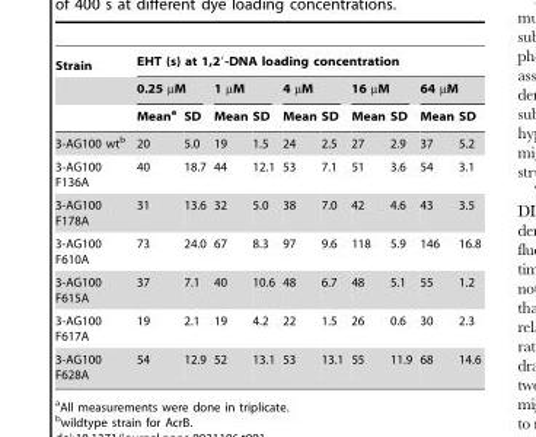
<table><thead><tr><td rowspan="3">Strain</td><td colspan="10">EHT (s) at 1,2′-DNA loading concentration</td></tr><tr><td colspan="2">0.25 µM</td><td colspan="2">1 µM</td><td colspan="2">4 µM</td><td colspan="2">16 µM</td><td colspan="2">64 µM</td></tr><tr><td>Mean<sup>a</sup></td><td>SD</td><td>Mean</td><td>SD</td><td>Mean</td><td>SD</td><td>Mean</td><td>SD</td><td>Mean</td><td>SD</td></tr></thead><tbody><tr><td>3-AG100 wt<sup>b</sup></td><td>20</td><td>5.0</td><td>19</td><td>1.5</td><td>24</td><td>2.5</td><td>27</td><td>2.9</td><td>37</td><td>5.2</td></tr><tr><td>3-AG100 F136A</td><td>40</td><td>18.7</td><td>44</td><td>12.1</td><td>53</td><td>7.1</td><td>51</td><td>3.6</td><td>54</td><td>3.1</td></tr><tr><td>3-AG100 F178A</td><td>31</td><td>13.6</td><td>32</td><td>5.0</td><td>38</td><td>7.0</td><td>42</td><td>4.6</td><td>43</td><td>3.5</td></tr><tr><td>3-AG100 F610A</td><td>73</td><td>24.0</td><td>67</td><td>8.3</td><td>97</td><td>9.6</td><td>118</td><td>5.9</td><td>146</td><td>16.8</td></tr><tr><td>3-AG100 F615A</td><td>37</td><td>7.1</td><td>40</td><td>10.6</td><td>48</td><td>6.7</td><td>48</td><td>5.1</td><td>55</td><td>1.2</td></tr><tr><td>3-AG100 F617A</td><td>19</td><td>2.1</td><td>19</td><td>4.2</td><td>22</td><td>1.5</td><td>26</td><td>0.6</td><td>30</td><td>2.3</td></tr><tr><td>3-AG100 F628A</td><td>54</td><td>12.9</td><td>52</td><td>13.1</td><td>53</td><td>13.1</td><td>55</td><td>11.9</td><td>68</td><td>14.6</td></tr></tbody></table>